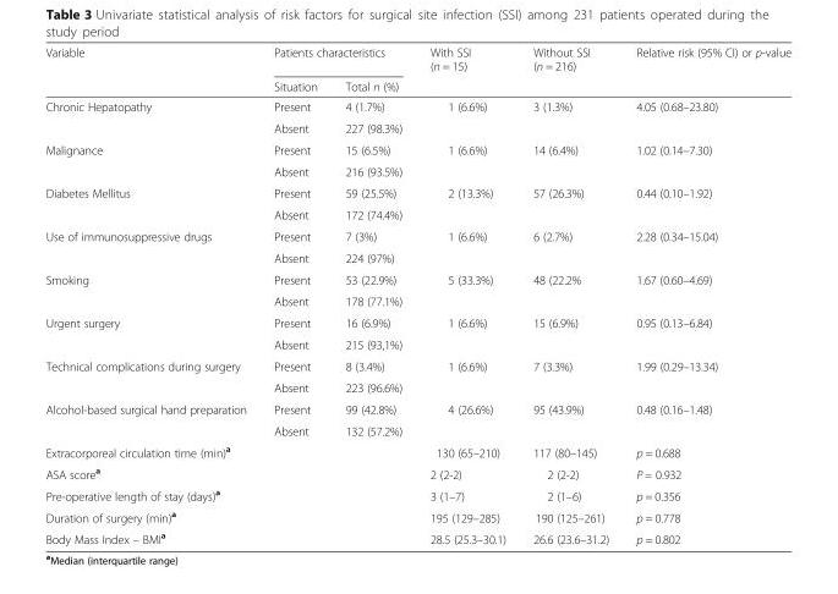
<table><thead><tr><td rowspan="2">Variable</td><td colspan="2">Patients characteristics</td><td rowspan="2">With SSI (n = 15)</td><td rowspan="2">Without SSI (n = 216)</td><td rowspan="2">Relative risk (95% CI) or p-value</td></tr><tr><td>Situation</td><td>Total n (%)</td></tr></thead><tbody><tr><td rowspan="2">Chronic Hepatopathy</td><td>Present</td><td>4 (1.7%)</td><td>1 (6.6%)</td><td>3 (1.3%)</td><td>4.05 (0.68–23.80)</td></tr><tr><td>Absent</td><td>227 (98.3%)</td><td colspan="3"></td></tr><tr><td rowspan="2">Malignance</td><td>Present</td><td>15 (6.5%)</td><td>1 (6.6%)</td><td>14 (6.4%)</td><td>1.02 (0.14–7.30)</td></tr><tr><td>Absent</td><td>216 (93.5%)</td><td colspan="3"></td></tr><tr><td rowspan="2">Diabetes Mellitus</td><td>Present</td><td>59 (25.5%)</td><td>2 (13.3%)</td><td>57 (26.3%)</td><td>0.44 (0.10–1.92)</td></tr><tr><td>Absent</td><td>172 (74.4%)</td><td colspan="3"></td></tr><tr><td rowspan="2">Use of immunosuppressive drugs</td><td>Present</td><td>7 (3%)</td><td>1 (6.6%)</td><td>6 (2.7%)</td><td>2.28 (0.34–15.04)</td></tr><tr><td>Absent</td><td>224 (97%)</td><td colspan="3"></td></tr><tr><td rowspan="2">Smoking</td><td>Present</td><td>53 (22.9%)</td><td>5 (33.3%)</td><td>48 (22.2%</td><td>1.67 (0.60–4.69)</td></tr><tr><td>Absent</td><td>178 (77.1%)</td><td colspan="3"></td></tr><tr><td rowspan="2">Urgent surgery</td><td>Present</td><td>16 (6.9%)</td><td>1 (6.6%)</td><td>15 (6.9%)</td><td>0.95 (0.13–6.84)</td></tr><tr><td>Absent</td><td>215 (93,1%)</td><td colspan="3"></td></tr><tr><td rowspan="2">Technical complications during surgery</td><td>Present</td><td>8 (3.4%)</td><td>1 (6.6%)</td><td>7 (3.3%)</td><td>1.99 (0.29–13.34)</td></tr><tr><td>Absent</td><td>223 (96.6%)</td><td colspan="3"></td></tr><tr><td rowspan="2">Alcohol-based surgical hand preparation</td><td>Present</td><td>99 (42.8%)</td><td>4 (26.6%)</td><td>95 (43.9%)</td><td>0.48 (0.16–1.48)</td></tr><tr><td>Absent</td><td>132 (57.2%)</td><td colspan="3"></td></tr><tr><td>Extracorporeal circulation time (min)<sup>a</sup></td><td rowspan="5" colspan="2"></td><td>130 (65–210)</td><td>117 (80–145)</td><td>p = 0.688</td></tr><tr><td>ASA score<sup>a</sup></td><td>2 (2-2)</td><td>2 (2-2)</td><td>P = 0.932</td></tr><tr><td>Pre-operative length of stay (days)<sup>a</sup></td><td>3 (1–7)</td><td>2 (1–6)</td><td>p = 0.356</td></tr><tr><td>Duration of surgery (min)<sup>a</sup></td><td>195 (129–285)</td><td>190 (125–261)</td><td>p = 0.778</td></tr><tr><td>Body Mass Index – BMI<sup>a</sup></td><td>28.5 (25.3–30.1)</td><td>26.6 (23.6–31.2)</td><td>p = 0.802</td></tr></tbody></table>